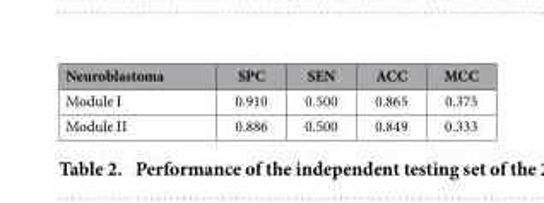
<table><thead><tr><td>Neuroblastoma</td><td>SPC</td><td>SEN</td><td>ACC</td><td>MCC</td></tr></thead><tbody><tr><td>Module I</td><td>0.910</td><td>0.500</td><td>0.865</td><td>0.375</td></tr><tr><td>Module II</td><td>0.886</td><td>0.500</td><td>0.849</td><td>0.333</td></tr></tbody></table>